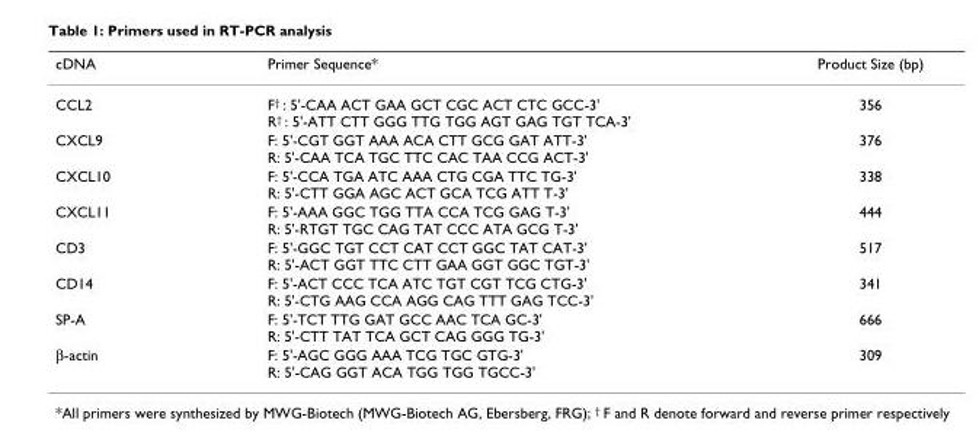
<table><thead><tr><td>cDNA</td><td>Primer Sequence*</td><td>Product Size (bp)</td></tr></thead><tbody><tr><td>CCL2</td><td>F<sup>†</sup> : 5&#x27;-CAA ACT GAA GCT CGC ACT CTC GCC-3&#x27; R<sup>†</sup> : 5&#x27;-ATT CTT GGG TTG TGG AGT GAG TGT TCA-3&#x27;</td><td>356</td></tr><tr><td>CXCL9</td><td>F: 5&#x27;-CGT GGT AAA ACA CTT GCG GAT ATT-3&#x27; R: 5&#x27;-CAA TCA TGC TTC CAC TAA CCG ACT-3&#x27;</td><td>376</td></tr><tr><td>CXCL10</td><td>F: 5&#x27;-CCA TGA ATC AAA CTG CGA TTC TG-3&#x27; R: 5&#x27;-CTT GGA AGC ACT GCA TCG ATT T-3&#x27;</td><td>338</td></tr><tr><td>CXCL11</td><td>F: 5&#x27;-AAA GGC TGG TTA CCA TCG GAG T-3&#x27; R: 5&#x27;-RTGT TGC CAG TAT CCC ATA GCG T-3&#x27;</td><td>444</td></tr><tr><td>CD3</td><td>F: 5&#x27;-GGC TGT CCT CAT CCT GGC TAT CAT-3&#x27; R: 5&#x27;-ACT GGT TTC CTT GAA GGT GGC TGT-3&#x27;</td><td>517</td></tr><tr><td>CD14</td><td>F: 5&#x27;-ACT CCC TCA ATC TGT CGT TCG CTG-3&#x27; R: 5&#x27;-CTG AAG CCA AGG CAG TTT GAG TCC-3&#x27;</td><td>341</td></tr><tr><td>SP-A</td><td>F: 5&#x27;-TCT TTG GAT GCC AAC TCA GC-3&#x27; R: 5&#x27;-CTT TAT TCA GCT CAG GGG TG-3&#x27;</td><td>666</td></tr><tr><td>β-actin</td><td>F: 5&#x27;-AGC GGG AAA TCG TGC GTG-3&#x27; R: 5&#x27;-CAG GGT ACA TGG TGG TGCC-3&#x27;</td><td>309</td></tr></tbody></table>